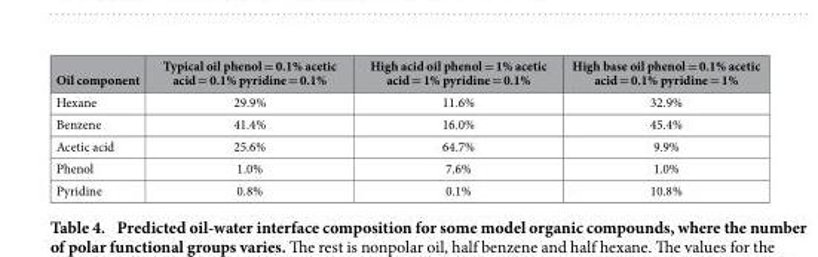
<table><thead><tr><td>Oil component</td><td>Typical oil phenol = 0.1% acetic acid = 0.1% pyridine = 0.1%</td><td>High acid oil phenol = 1% acetic acid = 1% pyridine = 0.1%</td><td>High base oil phenol = 0.1% acetic acid = 0.1% pyridine = 1%</td></tr></thead><tbody><tr><td>Hexane</td><td>29.9%</td><td>11.6%</td><td>32.9%</td></tr><tr><td>Benzene</td><td>41.4%</td><td>16.0%</td><td>45.4%</td></tr><tr><td>Acetic acid</td><td>25.6%</td><td>64.7%</td><td>9.9%</td></tr><tr><td>Phenol</td><td>1.0%</td><td>7.6%</td><td>1.0%</td></tr><tr><td>Pyridine</td><td>0.8%</td><td>0.1%</td><td>10.8%</td></tr></tbody></table>